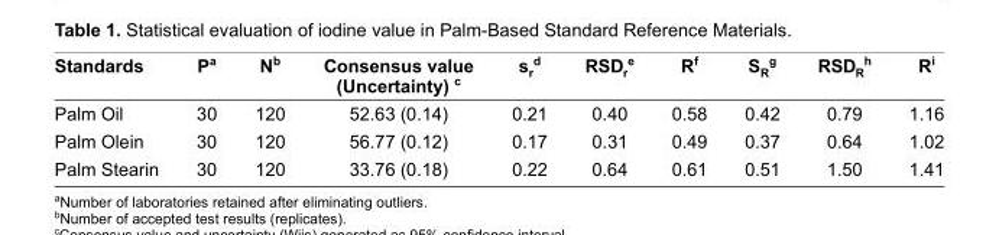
<table><thead><tr><td>Standards</td><td>P<sup>a</sup></td><td>N<sup>b</sup></td><td>Consensus value (Uncertainty) <sup>c</sup></td><td>s<sub>r</sub> <sup>d</sup></td><td>RSD<sub>r</sub> <sup>e</sup></td><td>R<sup>f</sup></td><td>S<sub>R</sub> <sup>g</sup></td><td>RSD<sub>R</sub> <sup>h</sup></td><td>R<sup>i</sup></td></tr></thead><tbody><tr><td>Palm Oil</td><td>30</td><td>120</td><td>52.63 (0.14)</td><td>0.21</td><td>0.40</td><td>0.58</td><td>0.42</td><td>0.79</td><td>1.16</td></tr><tr><td>Palm Olein</td><td>30</td><td>120</td><td>56.77 (0.12)</td><td>0.17</td><td>0.31</td><td>0.49</td><td>0.37</td><td>0.64</td><td>1.02</td></tr><tr><td>Palm Stearin</td><td>30</td><td>120</td><td>33.76 (0.18)</td><td>0.22</td><td>0.64</td><td>0.61</td><td>0.51</td><td>1.50</td><td>1.41</td></tr></tbody></table>